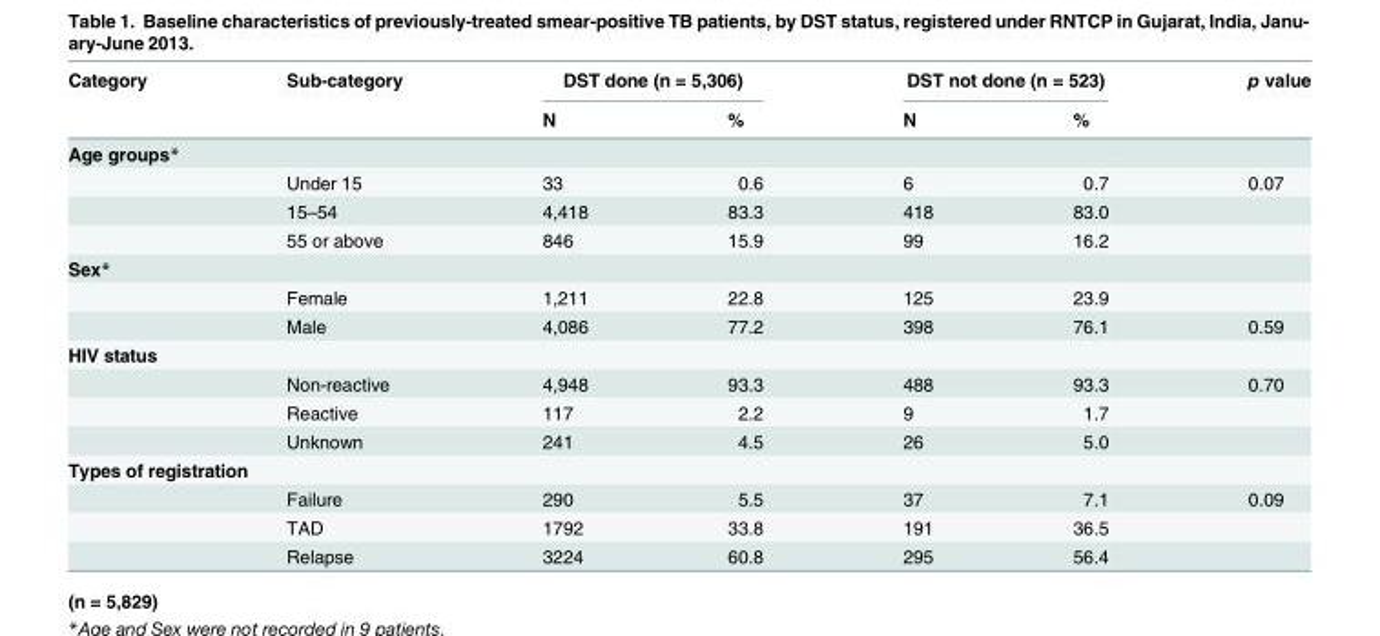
<table><thead><tr><td rowspan="2">Category</td><td rowspan="2">Sub-category</td><td colspan="2">DST done (n = 5,306)</td><td colspan="2">DST not done (n = 523)</td><td rowspan="2">p value</td></tr><tr><td>N</td><td>%</td><td>N</td><td>%</td></tr></thead><tbody><tr><td colspan="7">Age groups*</td></tr><tr><td></td><td>Under 15</td><td>33</td><td>0.6</td><td>6</td><td>0.7</td><td>0.07</td></tr><tr><td></td><td>15–54</td><td>4,418</td><td>83.3</td><td>418</td><td>83.0</td><td></td></tr><tr><td></td><td>55 or above</td><td>846</td><td>15.9</td><td>99</td><td>16.2</td><td></td></tr><tr><td colspan="7">Sex*</td></tr><tr><td></td><td>Female</td><td>1,211</td><td>22.8</td><td>125</td><td>23.9</td><td></td></tr><tr><td></td><td>Male</td><td>4,086</td><td>77.2</td><td>398</td><td>76.1</td><td>0.59</td></tr><tr><td colspan="7">HIV status</td></tr><tr><td></td><td>Non-reactive</td><td>4,948</td><td>93.3</td><td>488</td><td>93.3</td><td>0.70</td></tr><tr><td></td><td>Reactive</td><td>117</td><td>2.2</td><td>9</td><td>1.7</td><td></td></tr><tr><td></td><td>Unknown</td><td>241</td><td>4.5</td><td>26</td><td>5.0</td><td></td></tr><tr><td colspan="7">Types of registration</td></tr><tr><td></td><td>Failure</td><td>290</td><td>5.5</td><td>37</td><td>7.1</td><td>0.09</td></tr><tr><td></td><td>TAD</td><td>1792</td><td>33.8</td><td>191</td><td>36.5</td><td></td></tr><tr><td></td><td>Relapse</td><td>3224</td><td>60.8</td><td>295</td><td>56.4</td><td></td></tr></tbody></table>